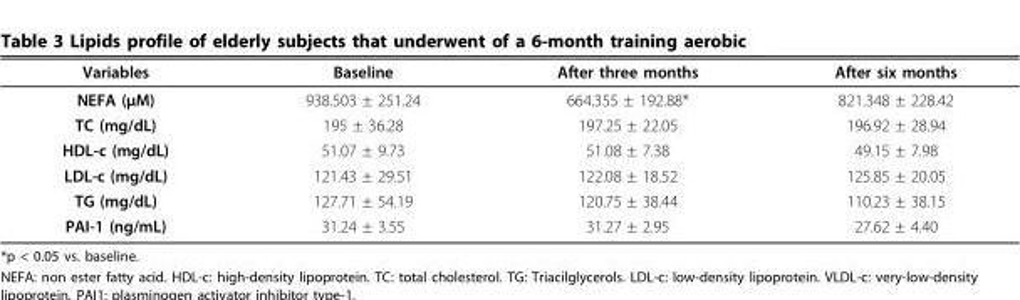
<table><tbody><tr><td>Variables</td><td>Baseline</td><td>After three months</td><td>After six months</td></tr><tr><td>NEFA (μM)</td><td>938.503 ± 251.24</td><td>664.355 ± 192.88*</td><td>821.348 ± 228.42</td></tr><tr><td>TC (mg/dL)</td><td>195 ± 36.28</td><td>197.25 ± 22.05</td><td>196.92 ± 28.94</td></tr><tr><td>HDL-c (mg/dL)</td><td>51.07 ± 9.73</td><td>51.08 ± 7.38</td><td>49.15 ± 7.98</td></tr><tr><td>LDL-c (mg/dL)</td><td>121.43 ± 29.51</td><td>122.08 ± 18.52</td><td>125.85 ± 20.05</td></tr><tr><td>TG (mg/dL)</td><td>127.71 ± 54.19</td><td>120.75 ± 38.44</td><td>110.23 ± 38.15</td></tr><tr><td>PAI-1 (ng/mL)</td><td>31.24 ± 3.55</td><td>31.27 ± 2.95</td><td>27.62 ± 4.40</td></tr></tbody></table>